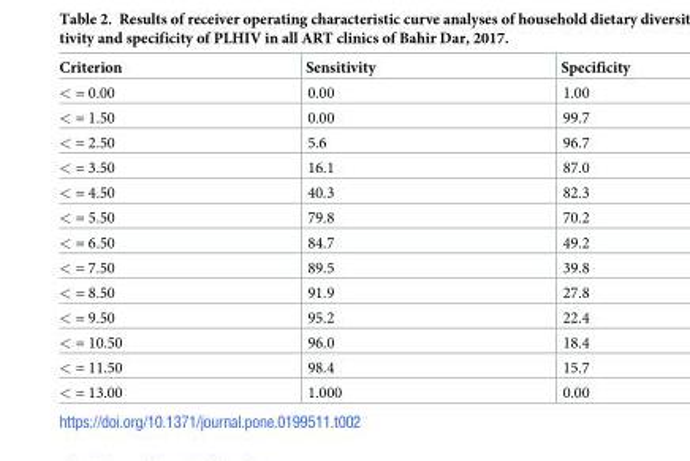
<table><thead><tr><td>Criterion</td><td>Sensitivity</td><td>Specificity</td></tr></thead><tbody><tr><td>&lt; = 0.00</td><td>0.00</td><td>1.00</td></tr><tr><td>&lt; = 1.50</td><td>0.00</td><td>99.7</td></tr><tr><td>&lt; = 2.50</td><td>5.6</td><td>96.7</td></tr><tr><td>&lt; = 3.50</td><td>16.1</td><td>87.0</td></tr><tr><td>&lt; = 4.50</td><td>40.3</td><td>82.3</td></tr><tr><td>&lt; = 5.50</td><td>79.8</td><td>70.2</td></tr><tr><td>&lt; = 6.50</td><td>84.7</td><td>49.2</td></tr><tr><td>&lt; = 7.50</td><td>89.5</td><td>39.8</td></tr><tr><td>&lt; = 8.50</td><td>91.9</td><td>27.8</td></tr><tr><td>&lt; = 9.50</td><td>95.2</td><td>22.4</td></tr><tr><td>&lt; = 10.50</td><td>96.0</td><td>18.4</td></tr><tr><td>&lt; = 11.50</td><td>98.4</td><td>15.7</td></tr><tr><td>&lt; = 13.00</td><td>1.000</td><td>0.00</td></tr></tbody></table>